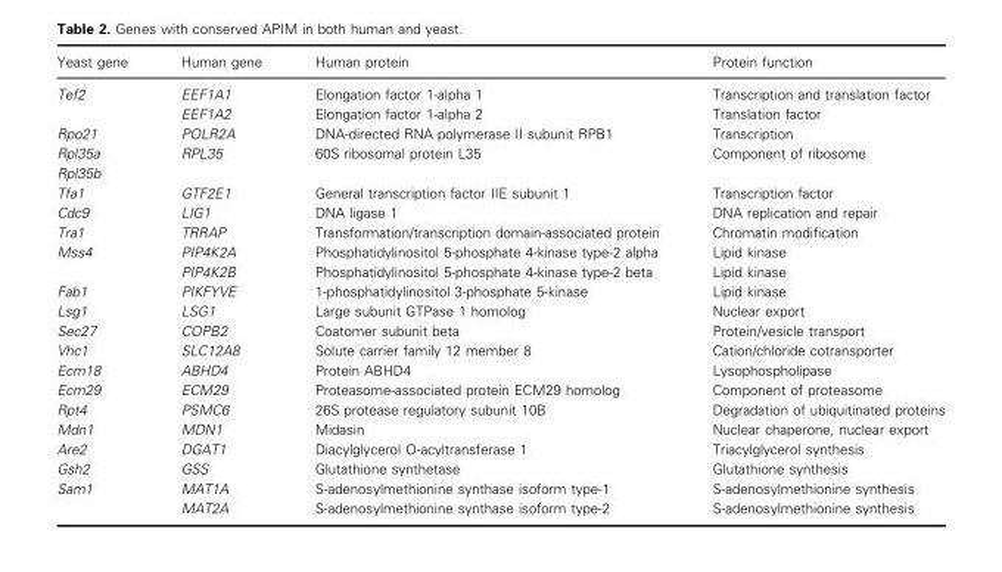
<table><thead><tr><td>Yeast gene</td><td>Human gene</td><td>Human protein</td><td>Protein function</td></tr></thead><tbody><tr><td rowspan="2">Tef2</td><td>EEF1A1</td><td>Elongation factor 1-alpha 1</td><td>Transcription and translation factor</td></tr><tr><td>EEF1A2</td><td>Elongation factor 1-alpha 2</td><td>Translation factor</td></tr><tr><td>Rpo21</td><td>POLR2A</td><td>DNA-directed RNA polymerase II subunit RPB1</td><td>Transcription</td></tr><tr><td>Rpl35a</td><td>RPL35</td><td>60S ribosomal protein L35</td><td>Component of ribosome</td></tr><tr><td colspan="4">Rpl35b</td></tr><tr><td>Tfa1</td><td>GTF2E1</td><td>General transcription factor IIE subunit 1</td><td>Transcription factor</td></tr><tr><td>Cdc9</td><td>LIG1</td><td>DNA ligase 1</td><td>DNA replication and repair</td></tr><tr><td>Tra1</td><td>TRRAP</td><td>Transformation/transcription domain-associated protein</td><td>Chromatin modification</td></tr><tr><td rowspan="2">Mss4</td><td>PIP4K2A</td><td>Phosphatidylinositol 5-phosphate 4-kinase type-2 alpha</td><td>Lipid kinase</td></tr><tr><td>PIP4K2B</td><td>Phosphatidylinositol 5-phosphate 4-kinase type-2 beta</td><td>Lipid kinase</td></tr><tr><td>Fab1</td><td>PIKFYVE</td><td>1-phosphatidylinositol 3-phosphate 5-kinase</td><td>Lipid kinase</td></tr><tr><td>Lsg1</td><td>LSG1</td><td>Large subunit GTPase 1 homolog</td><td>Nuclear export</td></tr><tr><td>Sec27</td><td>COPB2</td><td>Coatomer subunit beta</td><td>Protein/vesicle transport</td></tr><tr><td>Vhc1</td><td>SLC12A8</td><td>Solute carrier family 12 member 8</td><td>Cation/chloride cotransporter</td></tr><tr><td>Ecm18</td><td>ABHD4</td><td>Protein ABHD4</td><td>Lysophospholipase</td></tr><tr><td>Ecm29</td><td>ECM29</td><td>Proteasome-associated protein ECM29 homolog</td><td>Component of proteasome</td></tr><tr><td>Rpt4</td><td>PSMC6</td><td>26S protease regulatory subunit 10B</td><td>Degradation of ubiquitinated proteins</td></tr><tr><td>Mdn1</td><td>MDN1</td><td>Midasin</td><td>Nuclear chaperone, nuclear export</td></tr><tr><td>Are2</td><td>DGAT1</td><td>Diacylglycerol O-acyltransferase 1</td><td>Triacylglycerol synthesis</td></tr><tr><td>Gsh2</td><td>GSS</td><td>Glutathione synthetase</td><td>Glutathione synthesis</td></tr><tr><td rowspan="2">Sam1</td><td>MAT1A</td><td>S-adenosylmethionine synthase isoform type-1</td><td>S-adenosylmethionine synthesis</td></tr><tr><td>MAT2A</td><td>S-adenosylmethionine synthase isoform type-2</td><td>S-adenosylmethionine synthesis</td></tr></tbody></table>